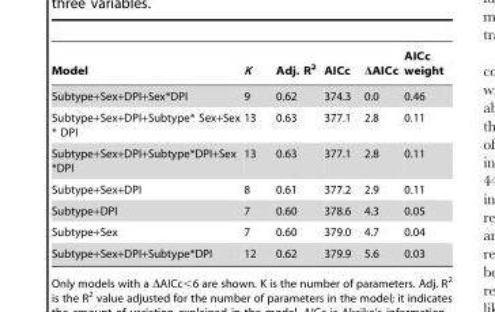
<table><thead><tr><td>Model</td><td>K</td><td>Adj. R<sup>2</sup></td><td>AICc</td><td>ΔAICc</td><td>AICc weight</td></tr></thead><tbody><tr><td>Subtype+Sex+DPI+Sex*DPI</td><td>9</td><td>0.62</td><td>374.3</td><td>0.0</td><td>0.46</td></tr><tr><td>Subtype+Sex+DPI+Subtype* Sex+Sex * DPI</td><td>13</td><td>0.63</td><td>377.1</td><td>2.8</td><td>0.11</td></tr><tr><td>Subtype+Sex+DPI+Subtype*DPI+Sex *DPI</td><td>13</td><td>0.63</td><td>377.1</td><td>2.8</td><td>0.11</td></tr><tr><td>Subtype+Sex+DPI</td><td>8</td><td>0.61</td><td>377.2</td><td>2.9</td><td>0.11</td></tr><tr><td>Subtype+DPI</td><td>7</td><td>0.60</td><td>378.6</td><td>4.3</td><td>0.05</td></tr><tr><td>Subtype+Sex</td><td>7</td><td>0.60</td><td>379.0</td><td>4.7</td><td>0.04</td></tr><tr><td>Subtype+Sex+DPI+Subtype*DPI</td><td>12</td><td>0.62</td><td>379.9</td><td>5.6</td><td>0.03</td></tr></tbody></table>